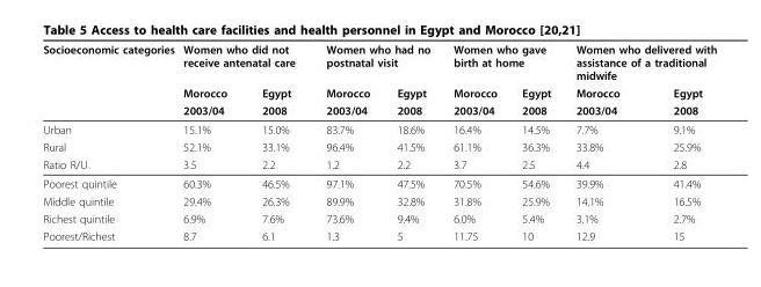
<table><thead><tr><td rowspan="3">Socioeconomic categories</td><td colspan="2">Women who did not receive antenatal care</td><td colspan="2">Women who had no postnatal visit</td><td colspan="2">Women who gave birth at home</td><td colspan="2">Women who delivered with assistance of a traditional midwife</td></tr><tr><td rowspan="2">Morocco 2003/04</td><td rowspan="2">Egypt 2008</td><td rowspan="2">Morocco 2003/04</td><td rowspan="2">Egypt 2008</td><td rowspan="2">Morocco 2003/04</td><td rowspan="2">Egypt 2008</td><td rowspan="2">Morocco 2003/04</td><td rowspan="2">Egypt 2008</td></tr><tr></tr></thead><tbody><tr><td>Urban</td><td>15.1%</td><td>15.0%</td><td>83.7%</td><td>18.6%</td><td>16.4%</td><td>14.5%</td><td>7.7%</td><td>9.1%</td></tr><tr><td>Rural</td><td>52.1%</td><td>33.1%</td><td>96.4%</td><td>41.5%</td><td>61.1%</td><td>36.3%</td><td>33.8%</td><td>25.9%</td></tr><tr><td>Ratio R/U</td><td>3.5</td><td>2.2</td><td>1.2</td><td>2.2</td><td>3.7</td><td>2.5</td><td>4.4</td><td>2.8</td></tr><tr><td>Poorest quintile</td><td>60.3%</td><td>46.5%</td><td>97.1%</td><td>47.5%</td><td>70.5%</td><td>54.6%</td><td>39.9%</td><td>41.4%</td></tr><tr><td>Middle quintile</td><td>29.4%</td><td>26.3%</td><td>89.9%</td><td>32.8%</td><td>31.8%</td><td>25.9%</td><td>14.1%</td><td>16.5%</td></tr><tr><td>Richest quintile</td><td>6.9%</td><td>7.6%</td><td>73.6%</td><td>9.4%</td><td>6.0%</td><td>5.4%</td><td>3.1%</td><td>2.7%</td></tr><tr><td>Poorest/Richest</td><td>8.7</td><td>6.1</td><td>1.3</td><td>5</td><td>11.75</td><td>10</td><td>12.9</td><td>15</td></tr></tbody></table>